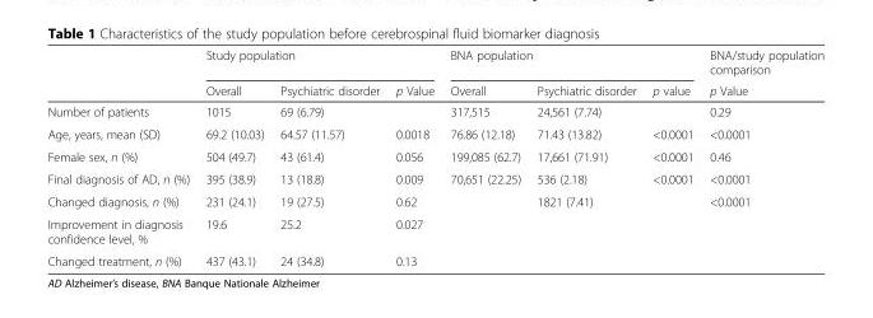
<table><thead><tr><td rowspan="2"></td><td colspan="3">Study population</td><td colspan="3">BNA population</td><td rowspan="2">BNA/study population comparison p Value</td></tr><tr><td>Overall</td><td>Psychiatric disorder</td><td>p Value</td><td>Overall</td><td>Psychiatric disorder</td><td>p value</td></tr></thead><tbody><tr><td>Number of patients</td><td>1015</td><td>69 (6.79)</td><td></td><td>317,515</td><td>24,561 (7.74)</td><td></td><td>0.29</td></tr><tr><td>Age, years, mean (SD)</td><td>69.2 (10.03)</td><td>64.57 (11.57)</td><td>0.0018</td><td>76.86 (12.18)</td><td>71.43 (13.82)</td><td>&lt;0.0001</td><td>&lt;0.0001</td></tr><tr><td>Female sex, n (%)</td><td>504 (49.7)</td><td>43 (61.4)</td><td>0.056</td><td>199,085 (62.7)</td><td>17,661 (71.91)</td><td>&lt;0.0001</td><td>0.46</td></tr><tr><td>Final diagnosis of AD, n (%)</td><td>395 (38.9)</td><td>13 (18.8)</td><td>0.009</td><td>70,651 (22.25)</td><td>536 (2.18)</td><td>&lt;0.0001</td><td>&lt;0.0001</td></tr><tr><td>Changed diagnosis, n (%)</td><td>231 (24.1)</td><td>19 (27.5)</td><td>0.62</td><td></td><td>1821 (7.41)</td><td></td><td>&lt;0.0001</td></tr><tr><td>Improvement in diagnosis confidence level, %</td><td>19.6</td><td>25.2</td><td>0.027</td><td></td><td></td><td></td><td></td></tr><tr><td>Changed treatment, n (%)</td><td>437 (43.1)</td><td>24 (34.8)</td><td>0.13</td><td></td><td></td><td></td><td></td></tr></tbody></table>